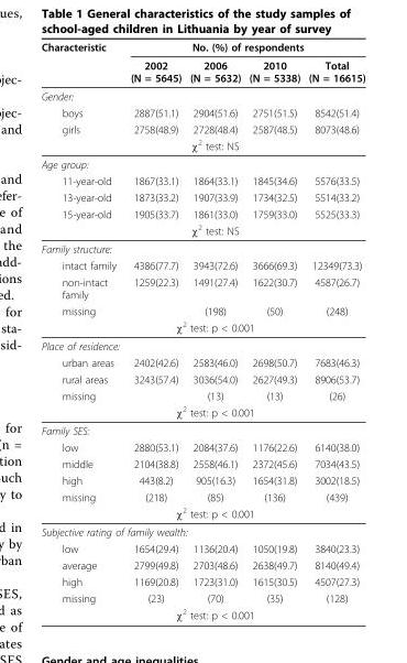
<table><thead><tr><td rowspan="2">Characteristic</td><td colspan="4">No. (%) of respondents</td></tr><tr><td>2002 (N = 5645)</td><td>2006 (N = 5632)</td><td>2010 (N = 5338)</td><td>Total (N = 16615)</td></tr></thead><tbody><tr><td colspan="5">Gender:</td></tr><tr><td>boys</td><td>2887(51.1)</td><td>2904(51.6)</td><td>2751(51.5)</td><td>8542(51.4)</td></tr><tr><td rowspan="2">girls</td><td>2758(48.9)</td><td>2728(48.4)</td><td>2587(48.5)</td><td>8073(48.6)</td></tr><tr><td colspan="3">χ<sup>2</sup> test: NS</td><td></td></tr><tr><td colspan="5">Age group:</td></tr><tr><td>11-year-old</td><td>1867(33.1)</td><td>1864(33.1)</td><td>1845(34.6)</td><td>5576(33.5)</td></tr><tr><td>13-year-old</td><td>1873(33.2)</td><td>1907(33.9)</td><td>1734(32.5)</td><td>5514(33.2)</td></tr><tr><td rowspan="2">15-year-old</td><td>1905(33.7)</td><td>1861(33.0)</td><td>1759(33.0)</td><td>5525(33.3)</td></tr><tr><td colspan="3">χ<sup>2</sup> test: NS</td><td></td></tr><tr><td colspan="5">Family structure:</td></tr><tr><td>intact family</td><td>4386(77.7)</td><td>3943(72.6)</td><td>3666(69.3)</td><td>12349(73.3)</td></tr><tr><td>non-intact family</td><td>1259(22.3)</td><td>1491(27.4)</td><td>1622(30.7)</td><td>4587(26.7)</td></tr><tr><td rowspan="2">missing</td><td></td><td>(198)</td><td>(50)</td><td>(248)</td></tr><tr><td colspan="3">χ<sup>2</sup> test: p &lt; 0.001</td><td></td></tr><tr><td colspan="5">Place of residence:</td></tr><tr><td>urban areas</td><td>2402(42.6)</td><td>2583(46.0)</td><td>2698(50.7)</td><td>7683(46.3)</td></tr><tr><td>rural areas</td><td>3243(57.4)</td><td>3036(54.0)</td><td>2627(49.3)</td><td>8906(53.7)</td></tr><tr><td rowspan="2">missing</td><td></td><td>(13)</td><td>(13)</td><td>(26)</td></tr><tr><td colspan="3">χ<sup>2</sup> test: p &lt; 0.001</td><td></td></tr><tr><td colspan="5">Family SES:</td></tr><tr><td>low</td><td>2880(53.1)</td><td>2084(37.6)</td><td>1176(22.6)</td><td>6140(38.0)</td></tr><tr><td>middle</td><td>2104(38.8)</td><td>2558(46.1)</td><td>2372(45.6)</td><td>7034(43.5)</td></tr><tr><td>high</td><td>443(8.2)</td><td>905(16.3)</td><td>1654(31.8)</td><td>3002(18.5)</td></tr><tr><td rowspan="2">missing</td><td>(218)</td><td>(85)</td><td>(136)</td><td>(439)</td></tr><tr><td colspan="3">χ<sup>2</sup> test: p &lt; 0.001</td><td></td></tr><tr><td colspan="5">Subjective rating of family wealth:</td></tr><tr><td>low</td><td>1654(29.4)</td><td>1136(20.4)</td><td>1050(19.8)</td><td>3840(23.3)</td></tr><tr><td>average</td><td>2799(49.8)</td><td>2703(48.6)</td><td>2638(49.7)</td><td>8140(49.4)</td></tr><tr><td>high</td><td>1169(20.8)</td><td>1723(31.0)</td><td>1615(30.5)</td><td>4507(27.3)</td></tr><tr><td rowspan="2">missing</td><td>(23)</td><td>(70)</td><td>(35)</td><td>(128)</td></tr><tr><td colspan="3">χ<sup>2</sup> test: p &lt; 0.001</td><td></td></tr></tbody></table>